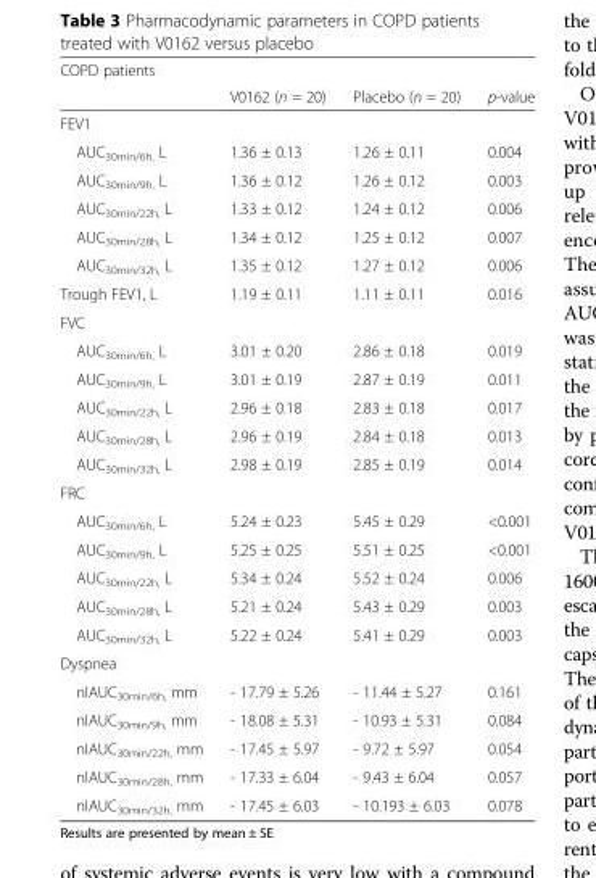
<table><thead><tr><td colspan="4">COPD patients</td></tr><tr><td></td><td>V0162 (n = 20)</td><td>Placebo (n = 20)</td><td>p-value</td></tr></thead><tbody><tr><td colspan="4">FEV1</td></tr><tr><td>AUC<sub>30min/6h,</sub> L</td><td>1.36 ± 0.13</td><td>1.26 ± 0.11</td><td>0.004</td></tr><tr><td>AUC<sub>30min/9h,</sub> L</td><td>1.36 ± 0.12</td><td>1.26 ± 0.12</td><td>0.003</td></tr><tr><td>AUC<sub>30min/22h,</sub> L</td><td>1.33 ± 0.12</td><td>1.24 ± 0.12</td><td>0.006</td></tr><tr><td>AUC<sub>30min/28h,</sub> L</td><td>1.34 ± 0.12</td><td>1.25 ± 0.12</td><td>0.007</td></tr><tr><td>AUC<sub>30min/32h,</sub> L</td><td>1.35 ± 0.12</td><td>1.27 ± 0.12</td><td>0.006</td></tr><tr><td>Trough FEV1, L</td><td>1.19 ± 0.11</td><td>1.11 ± 0.11</td><td>0.016</td></tr><tr><td colspan="4">FVC</td></tr><tr><td>AUC<sub>30min/6h,</sub> L</td><td>3.01 ± 0.20</td><td>2.86 ± 0.18</td><td>0.019</td></tr><tr><td>AUC<sub>30min/9h,</sub> L</td><td>3.01 ± 0.19</td><td>2.87 ± 0.19</td><td>0.011</td></tr><tr><td>AUC<sub>30min/22h,</sub> L</td><td>2.96 ± 0.18</td><td>2.83 ± 0.18</td><td>0.017</td></tr><tr><td>AUC<sub>30min/28h,</sub> L</td><td>2.96 ± 0.19</td><td>2.84 ± 0.18</td><td>0.013</td></tr><tr><td>AUC<sub>30min/32h,</sub> L</td><td>2.98 ± 0.19</td><td>2.85 ± 0.19</td><td>0.014</td></tr><tr><td colspan="4">FRC</td></tr><tr><td>AUC<sub>30min/6h,</sub> L</td><td>5.24 ± 0.23</td><td>5.45 ± 0.29</td><td>&lt;0.001</td></tr><tr><td>AUC<sub>30min/9h,</sub> L</td><td>5.25 ± 0.25</td><td>5.51 ± 0.25</td><td>&lt;0.001</td></tr><tr><td>AUC<sub>30min/22h,</sub> L</td><td>5.34 ± 0.24</td><td>5.52 ± 0.24</td><td>0.006</td></tr><tr><td>AUC<sub>30min/28h,</sub> L</td><td>5.21 ± 0.24</td><td>5.43 ± 0.29</td><td>0.003</td></tr><tr><td>AUC<sub>30min/32h,</sub> L</td><td>5.22 ± 0.24</td><td>5.41 ± 0.29</td><td>0.003</td></tr><tr><td colspan="4">Dyspnea</td></tr><tr><td>nIAUC<sub>30min/6h,</sub> mm</td><td>- 17.79 ± 5.26</td><td>- 11.44 ± 5.27</td><td>0.161</td></tr><tr><td>nIAUC<sub>30min/9h,</sub> mm</td><td>- 18.08 ± 5.31</td><td>- 10.93 ± 5.31</td><td>0.084</td></tr><tr><td>nIAUC<sub>30min/22h,</sub> mm</td><td>- 17.45 ± 5.97</td><td>- 9.72 ± 5.97</td><td>0.054</td></tr><tr><td>nIAUC<sub>30min/28h,</sub> mm</td><td>- 17.33 ± 6.04</td><td>- 9.43 ± 6.04</td><td>0.057</td></tr><tr><td>nIAUC<sub>30min/32h,</sub> mm</td><td>- 17.45 ± 6.03</td><td>- 10.193 ± 6.03</td><td>0.078</td></tr></tbody></table>